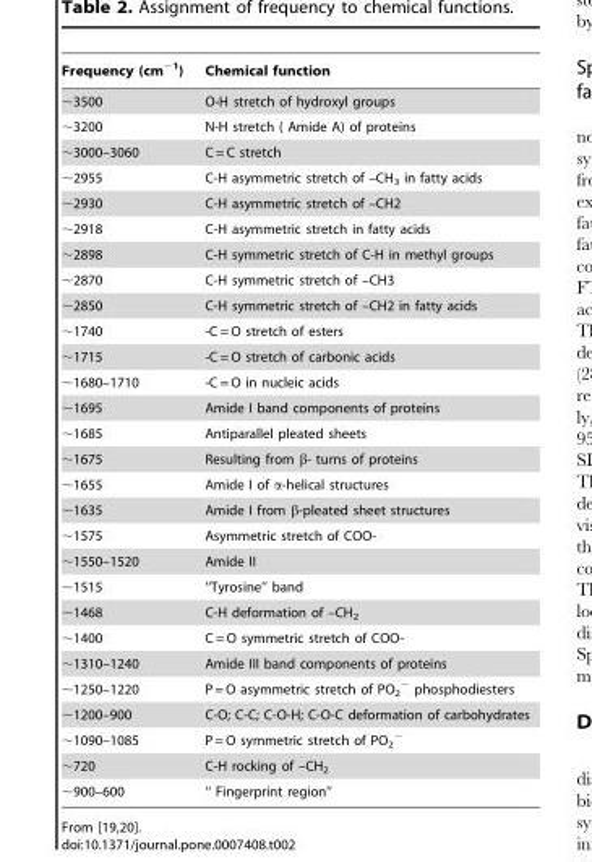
<table><thead><tr><td>Frequency (cm<sup>−1</sup>)</td><td>Chemical function</td></tr></thead><tbody><tr><td>∼3500</td><td>O-H stretch of hydroxyl groups</td></tr><tr><td>∼3200</td><td>N-H stretch ( Amide A) of proteins</td></tr><tr><td>∼3000–3060</td><td>C = C stretch</td></tr><tr><td>∼2955</td><td>C-H asymmetric stretch of –CH<sub>3</sub> in fatty acids</td></tr><tr><td>∼2930</td><td>C-H asymmetric stretch of –CH2</td></tr><tr><td>∼2918</td><td>C-H asymmetric stretch in fatty acids</td></tr><tr><td>∼2898</td><td>C-H symmetric stretch of C-H in methyl groups</td></tr><tr><td>∼2870</td><td>C-H symmetric stretch of –CH3</td></tr><tr><td>∼2850</td><td>C-H symmetric stretch of –CH2 in fatty acids</td></tr><tr><td>∼1740</td><td>-C = O stretch of esters</td></tr><tr><td>∼1715</td><td>-C = O stretch of carbonic acids</td></tr><tr><td>∼1680–1710</td><td>-C = O in nucleic acids</td></tr><tr><td>∼1695</td><td>Amide I band components of proteins</td></tr><tr><td>∼1685</td><td>Antiparallel pleated sheets</td></tr><tr><td>∼1675</td><td>Resulting from β- turns of proteins</td></tr><tr><td>∼1655</td><td>Amide I of α-helical structures</td></tr><tr><td>∼1635</td><td>Amide I from β-pleated sheet structures</td></tr><tr><td>∼1575</td><td>Asymmetric stretch of COO-</td></tr><tr><td>∼1550–1520</td><td>Amide II</td></tr><tr><td>∼1515</td><td>‘‘Tyrosine’’ band</td></tr><tr><td>∼1468</td><td>C-H deformation of –CH<sub>2</sub></td></tr><tr><td>∼1400</td><td>C = O symmetric stretch of COO-</td></tr><tr><td>∼1310–1240</td><td>Amide III band components of proteins</td></tr><tr><td>∼1250–1220</td><td>P = O asymmetric stretch of PO<sub>2</sub> <sup>−</sup> phosphodiesters</td></tr><tr><td>∼1200–900</td><td>C-O; C-C; C-O-H; C-O-C deformation of carbohydrates</td></tr><tr><td>∼1090–1085</td><td>P = O symmetric stretch of PO<sub>2</sub> <sup>−</sup></td></tr><tr><td>∼720</td><td>C-H rocking of –CH<sub>2</sub></td></tr><tr><td>∼900–600</td><td>‘‘ Fingerprint region’’</td></tr></tbody></table>